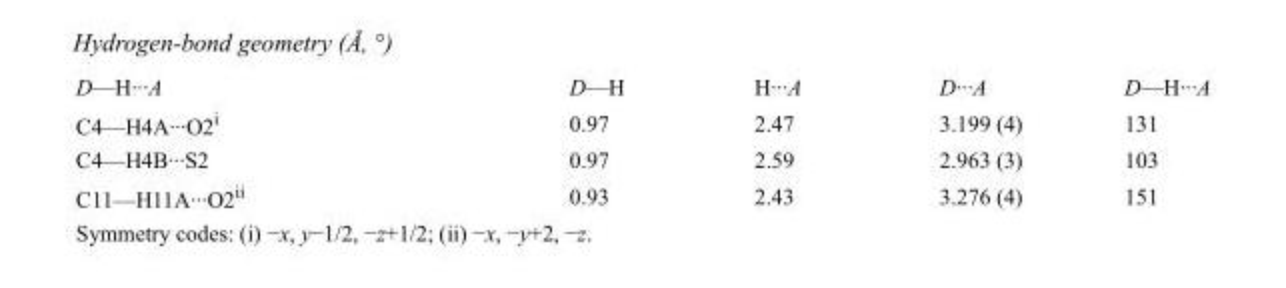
<table><tbody><tr><td>D—H···A</td><td>D—H</td><td>H···A</td><td>D···A</td><td>D—H···A</td></tr><tr><td>C4—H4A···O2<sup>i</sup></td><td>0.97</td><td>2.47</td><td>3.199 (4)</td><td>131</td></tr><tr><td>C4—H4B···S2</td><td>0.97</td><td>2.59</td><td>2.963 (3)</td><td>103</td></tr><tr><td>C11—H11A···O2<sup>ii</sup></td><td>0.93</td><td>2.43</td><td>3.276 (4)</td><td>151</td></tr></tbody></table>